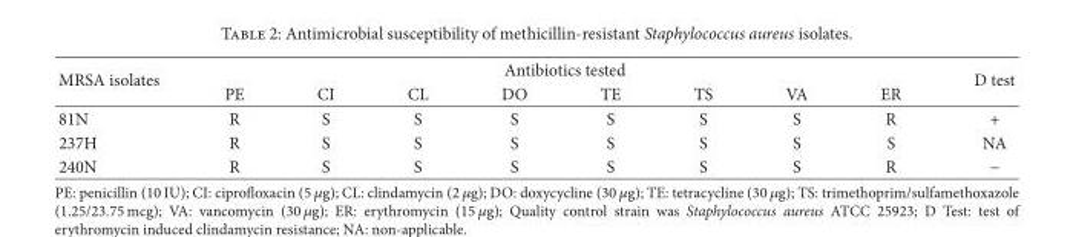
<table><thead><tr><td rowspan="2">MRSA isolates</td><td colspan="8">Antibiotics tested</td><td rowspan="2">D test</td></tr><tr><td>PE</td><td>CI</td><td>CL</td><td>DO</td><td>TE</td><td>TS</td><td>VA</td><td>ER</td></tr></thead><tbody><tr><td>81N</td><td>R</td><td>S</td><td>S</td><td>S</td><td>S</td><td>S</td><td>S</td><td>R</td><td>+</td></tr><tr><td>237H</td><td>R</td><td>S</td><td>S</td><td>S</td><td>S</td><td>S</td><td>S</td><td>S</td><td>NA</td></tr><tr><td>240N</td><td>R</td><td>S</td><td>S</td><td>S</td><td>S</td><td>S</td><td>S</td><td>R</td><td>−</td></tr></tbody></table>